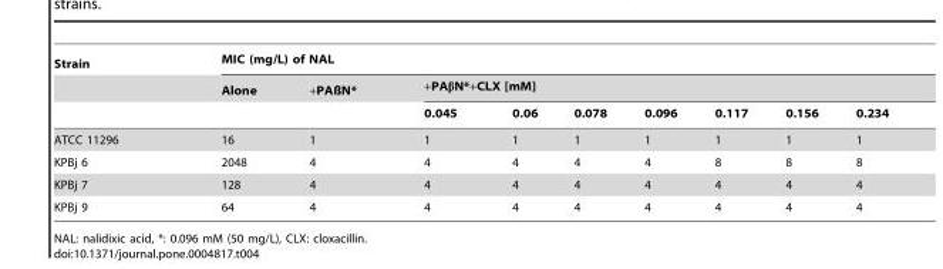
<table><thead><tr><td rowspan="3">Strain</td><td colspan="9">MIC (mg/L) of NAL</td></tr><tr><td rowspan="2">Alone</td><td rowspan="2">+PAßN*</td><td colspan="7">+PAβN*+CLX [mM]</td></tr><tr><td>0.045</td><td>0.06</td><td>0.078</td><td>0.096</td><td>0.117</td><td>0.156</td><td>0.234</td></tr></thead><tbody><tr><td>ATCC 11296</td><td>16</td><td>1</td><td>1</td><td>1</td><td>1</td><td>1</td><td>1</td><td>1</td><td>1</td></tr><tr><td>KPBj 6</td><td>2048</td><td>4</td><td>4</td><td>4</td><td>4</td><td>4</td><td>8</td><td>8</td><td>8</td></tr><tr><td>KPBj 7</td><td>128</td><td>4</td><td>4</td><td>4</td><td>4</td><td>4</td><td>4</td><td>4</td><td>4</td></tr><tr><td>KPBj 9</td><td>64</td><td>4</td><td>4</td><td>4</td><td>4</td><td>4</td><td>4</td><td>4</td><td>4</td></tr></tbody></table>